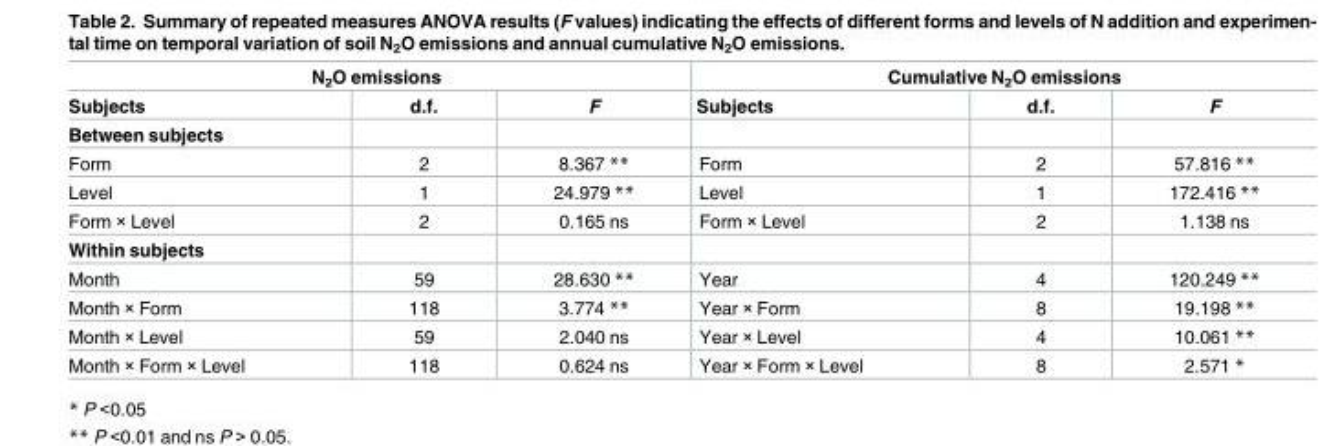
<table><thead><tr><td colspan="3">N<sub>2</sub>O emissions</td><td colspan="3">Cumulative N<sub>2</sub>O emissions</td></tr><tr><td>Subjects</td><td>d.f.</td><td>F</td><td>Subjects</td><td>d.f.</td><td>F</td></tr></thead><tbody><tr><td colspan="6">Between subjects</td></tr><tr><td>Form</td><td>2</td><td>8.367 **</td><td>Form</td><td>2</td><td>57.816 **</td></tr><tr><td>Level</td><td>1</td><td>24.979 **</td><td>Level</td><td>1</td><td>172.416 **</td></tr><tr><td>Form × Level</td><td>2</td><td>0.165 ns</td><td>Form × Level</td><td>2</td><td>1.138 ns</td></tr><tr><td colspan="6">Within subjects</td></tr><tr><td>Month</td><td>59</td><td>28.630 **</td><td>Year</td><td>4</td><td>120.249 **</td></tr><tr><td>Month × Form</td><td>118</td><td>3.774 **</td><td>Year × Form</td><td>8</td><td>19.198 **</td></tr><tr><td>Month × Level</td><td>59</td><td>2.040 ns</td><td>Year × Level</td><td>4</td><td>10.061 **</td></tr><tr><td>Month × Form × Level</td><td>118</td><td>0.624 ns</td><td>Year × Form × Level</td><td>8</td><td>2.571 *</td></tr></tbody></table>